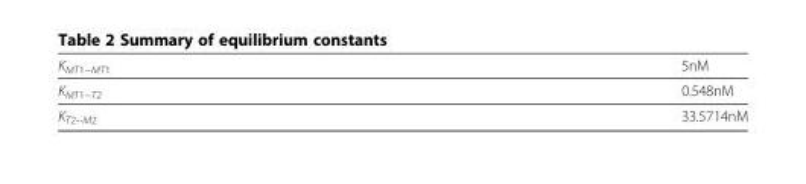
<table><thead><tr><td>K<sub>MT1−MT1</sub></td><td>5nM</td></tr></thead><tbody><tr><td>K<sub>MT1−T2</sub></td><td>0.548nM</td></tr><tr><td>K<sub>T2−M2</sub></td><td>33.5714nM</td></tr></tbody></table>